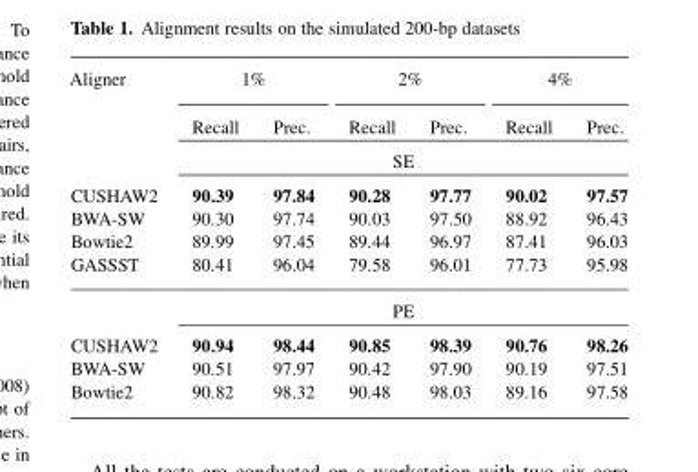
<table><thead><tr><td rowspan="2">Aligner</td><td colspan="2">1%</td><td colspan="2">2%</td><td colspan="2">4%</td></tr><tr><td>Recall</td><td>Prec.</td><td>Recall</td><td>Prec.</td><td>Recall</td><td>Prec.</td></tr></thead><tbody><tr><td></td><td colspan="6">SE</td></tr><tr><td>CUSHAW2</td><td>90.39</td><td>97.84</td><td>90.28</td><td>97.77</td><td>90.02</td><td>97.57</td></tr><tr><td>BWA-SW</td><td>90.30</td><td>97.74</td><td>90.03</td><td>97.50</td><td>88.92</td><td>96.43</td></tr><tr><td>Bowtie2</td><td>89.99</td><td>97.45</td><td>89.44</td><td>96.97</td><td>87.41</td><td>96.03</td></tr><tr><td rowspan="2">GASSST</td><td>80.41</td><td>96.04</td><td>79.58</td><td>96.01</td><td>77.73</td><td>95.98</td></tr><tr><td colspan="6">PE</td></tr><tr><td>CUSHAW2</td><td>90.94</td><td>98.44</td><td>90.85</td><td>98.39</td><td>90.76</td><td>98.26</td></tr><tr><td>BWA-SW</td><td>90.51</td><td>97.97</td><td>90.42</td><td>97.90</td><td>90.19</td><td>97.51</td></tr><tr><td>Bowtie2</td><td>90.82</td><td>98.32</td><td>90.48</td><td>98.03</td><td>89.16</td><td>97.58</td></tr></tbody></table>